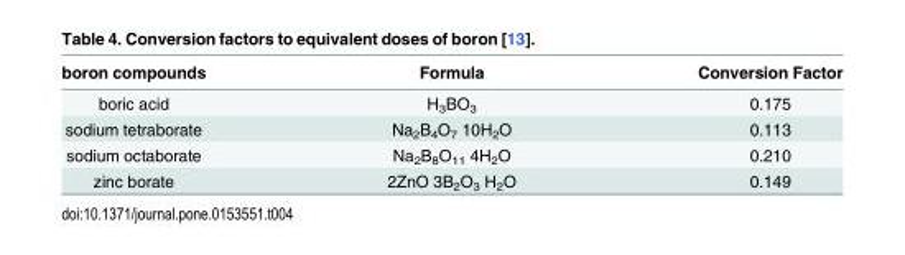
<table><thead><tr><td>boron compounds</td><td>Formula</td><td>Conversion Factor</td></tr></thead><tbody><tr><td>boric acid</td><td>H<sub>3</sub>BO<sub>3</sub></td><td>0.175</td></tr><tr><td>sodium tetraborate</td><td>Na<sub>2</sub>B<sub>4</sub>O<sub>7</sub> 10H<sub>2</sub>O</td><td>0.113</td></tr><tr><td>sodium octaborate</td><td>Na<sub>2</sub>B<sub>8</sub>O<sub>11</sub> 4H<sub>2</sub>O</td><td>0.210</td></tr><tr><td>zinc borate</td><td>2ZnO 3B<sub>2</sub>O<sub>3</sub> H<sub>2</sub>O</td><td>0.149</td></tr></tbody></table>